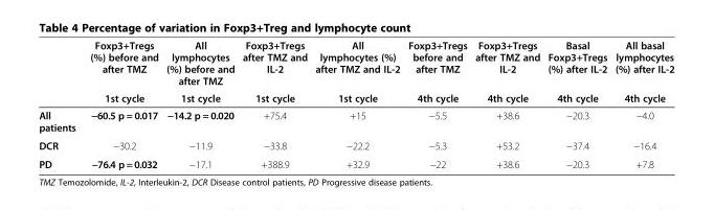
<table><thead><tr><td rowspan="2"></td><td rowspan="2">Foxp3+Tregs (%) before and after TMZ 1st cycle</td><td rowspan="2">All lymphocytes (%) before and after TMZ 1st cycle</td><td rowspan="2">Foxp3+Tregs after TMZ and IL-2 1st cycle</td><td rowspan="2">All lymphocytes (%) after TMZ and IL-2 1st cycle</td><td rowspan="2">Foxp3+Tregs before and after TMZ 4th cycle</td><td rowspan="2">Foxp3+Tregs after TMZ and IL-2 4th cycle</td><td rowspan="2">Basal Foxp3+Tregs (%) after IL-2 4th cycle</td><td rowspan="2">All basal lymphocytes (%) after IL-2 4th cycle</td></tr><tr></tr></thead><tbody><tr><td>All patients</td><td>−60.5 p = 0.017</td><td>−14.2 p = 0.020</td><td>+75.4</td><td>+15</td><td>−5.5</td><td>+38.6</td><td>−20.3</td><td>−4.0</td></tr><tr><td>DCR</td><td>−30.2</td><td>−11.9</td><td>−33.8</td><td>−22.2</td><td>−5.3</td><td>+53.2</td><td>−37.4</td><td>−16.4</td></tr><tr><td>PD</td><td>−76.4 p = 0.032</td><td>−17.1</td><td>+388.9</td><td>+32.9</td><td>−22</td><td>+38.6</td><td>−20.3</td><td>+7.8</td></tr></tbody></table>